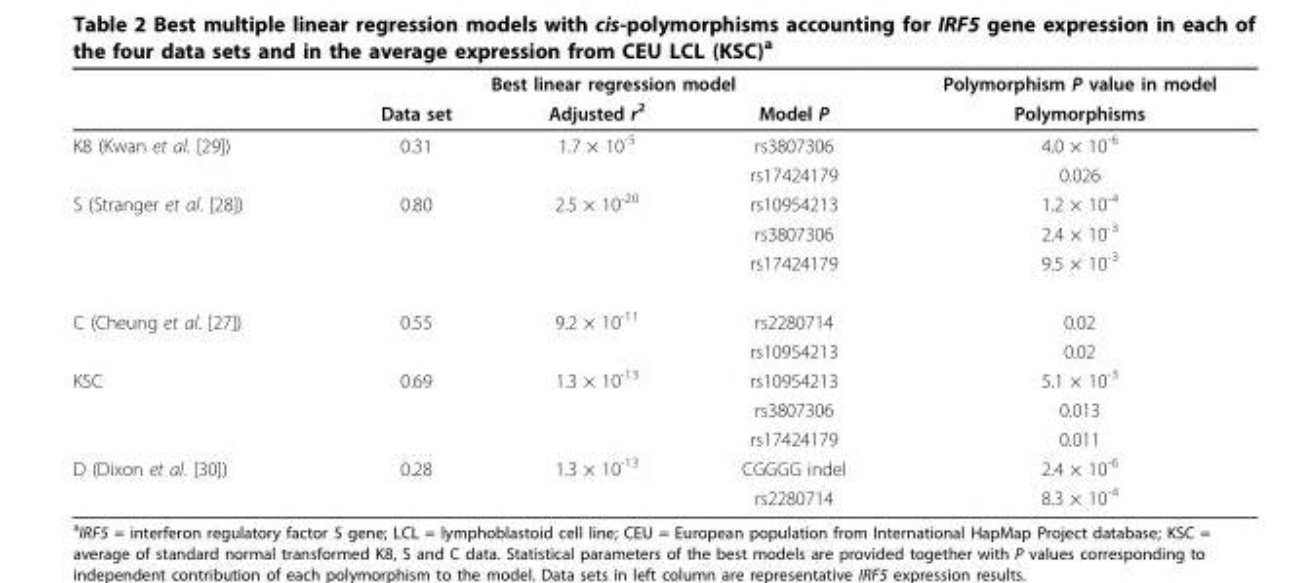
<table><thead><tr><td rowspan="2"></td><td colspan="3">Best linear regression model</td><td rowspan="2">Polymorphism P value in model Polymorphisms</td></tr><tr><td>Data set</td><td>Adjusted r<sup>2</sup></td><td>Model P</td></tr></thead><tbody><tr><td rowspan="2">K8 (Kwan et al. [29])</td><td>0.31</td><td>1.7 × 10<sup>-5</sup></td><td>rs3807306</td><td>4.0 × 10<sup>-6</sup></td></tr><tr><td></td><td></td><td>rs17424179</td><td>0.026</td></tr><tr><td rowspan="3">S (Stranger et al. [28])</td><td>0.80</td><td>2.5 × 10<sup>-20</sup></td><td>rs10954213</td><td>1.2 × 10<sup>-4</sup></td></tr><tr><td></td><td></td><td>rs3807306</td><td>2.4 × 10<sup>-3</sup></td></tr><tr><td></td><td></td><td>rs17424179</td><td>9.5 × 10<sup>-3</sup></td></tr><tr><td rowspan="2">C (Cheung et al. [27])</td><td>0.55</td><td>9.2 × 10<sup>-11</sup></td><td>rs2280714</td><td>0.02</td></tr><tr><td></td><td></td><td>rs10954213</td><td>0.02</td></tr><tr><td rowspan="3">KSC</td><td>0.69</td><td>1.3 × 10<sup>-13</sup></td><td>rs10954213</td><td>5.1 × 10<sup>-3</sup></td></tr><tr><td></td><td></td><td>rs3807306</td><td>0.013</td></tr><tr><td></td><td></td><td>rs17424179</td><td>0.011</td></tr><tr><td rowspan="2">D (Dixon et al. [30])</td><td>0.28</td><td>1.3 × 10<sup>-13</sup></td><td>CGGGG indel</td><td>2.4 × 10<sup>-6</sup></td></tr><tr><td></td><td></td><td>rs2280714</td><td>8.3 × 10<sup>-4</sup></td></tr></tbody></table>